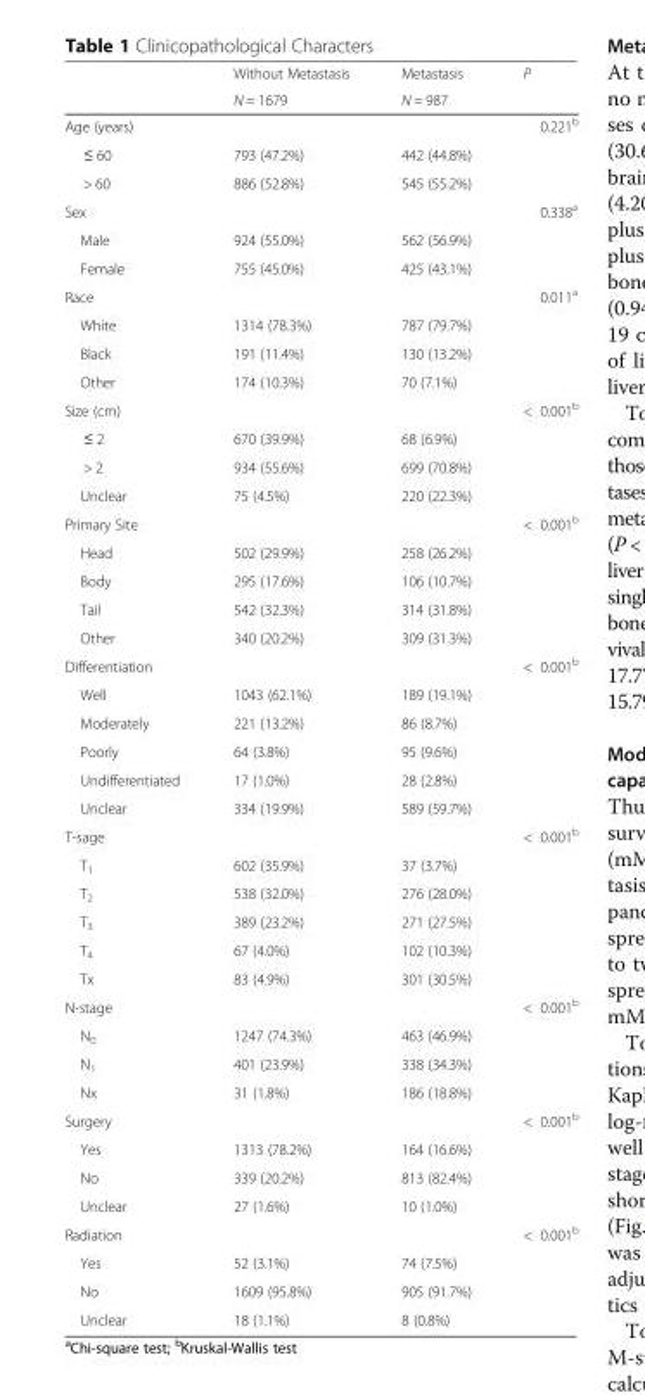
<table><thead><tr><td rowspan="2"></td><td rowspan="2">Without Metastasis N = 1679</td><td rowspan="2">Metastasis N = 987</td><td rowspan="2">P</td></tr><tr></tr></thead><tbody><tr><td colspan="3">Age (years)</td><td>0.221<sup>b</sup></td></tr><tr><td>≤ 60</td><td>793 (47.2%)</td><td>442 (44.8%)</td><td></td></tr><tr><td>&gt; 60</td><td>886 (52.8%)</td><td>545 (55.2%)</td><td></td></tr><tr><td colspan="3">Sex</td><td>0.338<sup>a</sup></td></tr><tr><td>Male</td><td>924 (55.0%)</td><td>562 (56.9%)</td><td></td></tr><tr><td>Female</td><td>755 (45.0%)</td><td>425 (43.1%)</td><td></td></tr><tr><td colspan="3">Race</td><td>0.011<sup>a</sup></td></tr><tr><td>White</td><td>1314 (78.3%)</td><td>787 (79.7%)</td><td></td></tr><tr><td>Black</td><td>191 (11.4%)</td><td>130 (13.2%)</td><td></td></tr><tr><td>Other</td><td>174 (10.3%)</td><td>70 (7.1%)</td><td></td></tr><tr><td colspan="3">Size (cm)</td><td>&lt; 0.001<sup>b</sup></td></tr><tr><td>≤ 2</td><td>670 (39.9%)</td><td>68 (6.9%)</td><td></td></tr><tr><td>&gt; 2</td><td>934 (55.6%)</td><td>699 (70.8%)</td><td></td></tr><tr><td>Unclear</td><td>75 (4.5%)</td><td>220 (22.3%)</td><td></td></tr><tr><td colspan="3">Primary Site</td><td>&lt; 0.001<sup>b</sup></td></tr><tr><td>Head</td><td>502 (29.9%)</td><td>258 (26.2%)</td><td></td></tr><tr><td>Body</td><td>295 (17.6%)</td><td>106 (10.7%)</td><td></td></tr><tr><td>Tail</td><td>542 (32.3%)</td><td>314 (31.8%)</td><td></td></tr><tr><td>Other</td><td>340 (20.2%)</td><td>309 (31.3%)</td><td></td></tr><tr><td colspan="3">Differentiation</td><td>&lt; 0.001<sup>b</sup></td></tr><tr><td>Well</td><td>1043 (62.1%)</td><td>189 (19.1%)</td><td></td></tr><tr><td>Moderately</td><td>221 (13.2%)</td><td>86 (8.7%)</td><td></td></tr><tr><td>Poorly</td><td>64 (3.8%)</td><td>95 (9.6%)</td><td></td></tr><tr><td>Undifferentiated</td><td>17 (1.0%)</td><td>28 (2.8%)</td><td></td></tr><tr><td>Unclear</td><td>334 (19.9%)</td><td>589 (59.7%)</td><td></td></tr><tr><td colspan="3">T-sage</td><td>&lt; 0.001<sup>b</sup></td></tr><tr><td>T<sub>1</sub></td><td>602 (35.9%)</td><td>37 (3.7%)</td><td></td></tr><tr><td>T<sub>2</sub></td><td>538 (32.0%)</td><td>276 (28.0%)</td><td></td></tr><tr><td>T<sub>3</sub></td><td>389 (23.2%)</td><td>271 (27.5%)</td><td></td></tr><tr><td>T<sub>4</sub></td><td>67 (4.0%)</td><td>102 (10.3%)</td><td></td></tr><tr><td>Tx</td><td>83 (4.9%)</td><td>301 (30.5%)</td><td></td></tr><tr><td colspan="3">N-stage</td><td>&lt; 0.001<sup>b</sup></td></tr><tr><td>N<sub>0</sub></td><td>1247 (74.3%)</td><td>463 (46.9%)</td><td></td></tr><tr><td>N<sub>1</sub></td><td>401 (23.9%)</td><td>338 (34.3%)</td><td></td></tr><tr><td>Nx</td><td>31 (1.8%)</td><td>186 (18.8%)</td><td></td></tr><tr><td colspan="3">Surgery</td><td>&lt; 0.001<sup>b</sup></td></tr><tr><td>Yes</td><td>1313 (78.2%)</td><td>164 (16.6%)</td><td></td></tr><tr><td>No</td><td>339 (20.2%)</td><td>813 (82.4%)</td><td></td></tr><tr><td>Unclear</td><td>27 (1.6%)</td><td>10 (1.0%)</td><td></td></tr><tr><td colspan="3">Radiation</td><td>&lt; 0.001<sup>b</sup></td></tr><tr><td>Yes</td><td>52 (3.1%)</td><td>74 (7.5%)</td><td></td></tr><tr><td>No</td><td>1609 (95.8%)</td><td>905 (91.7%)</td><td></td></tr><tr><td>Unclear</td><td>18 (1.1%)</td><td>8 (0.8%)</td><td></td></tr></tbody></table>